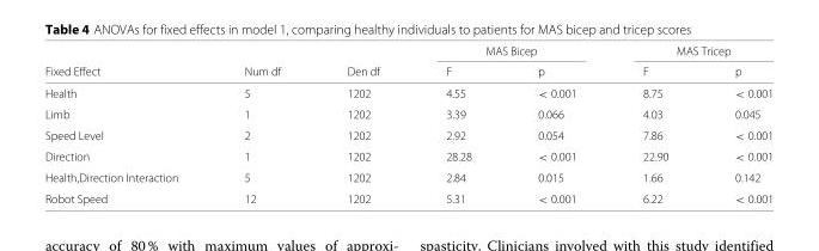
<table><thead><tr><td rowspan="2">Fixed Effect</td><td rowspan="2">Num df</td><td rowspan="2">Den df</td><td colspan="2">MAS Bicep</td><td colspan="2">MAS Tricep</td></tr><tr><td>F</td><td>p</td><td>F</td><td>p</td></tr></thead><tbody><tr><td>Health</td><td>5</td><td>1202</td><td>4.55</td><td>&lt; 0.001</td><td>8.75</td><td>&lt; 0.001</td></tr><tr><td>Limb</td><td>1</td><td>1202</td><td>3.39</td><td>0.066</td><td>4.03</td><td>0.045</td></tr><tr><td>Speed Level</td><td>2</td><td>1202</td><td>2.92</td><td>0.054</td><td>7.86</td><td>&lt; 0.001</td></tr><tr><td>Direction</td><td>1</td><td>1202</td><td>28.28</td><td>&lt; 0.001</td><td>22.90</td><td>&lt; 0.001</td></tr><tr><td>Health,Direction Interaction</td><td>5</td><td>1202</td><td>2.84</td><td>0.015</td><td>1.66</td><td>0.142</td></tr><tr><td>Robot Speed</td><td>12</td><td>1202</td><td>5.31</td><td>&lt; 0.001</td><td>6.22</td><td>&lt; 0.001</td></tr></tbody></table>